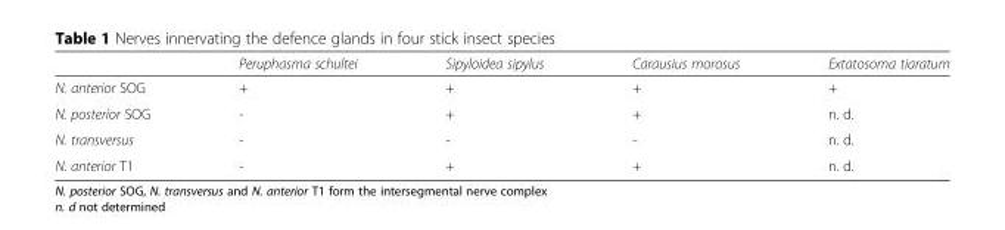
<table><thead><tr><td></td><td>Peruphasma schultei</td><td>Sipyloidea sipylus</td><td>Carausius morosus</td><td>Extatosoma tiaratum</td></tr></thead><tbody><tr><td>N. anterior SOG</td><td>+</td><td>+</td><td>+</td><td>+</td></tr><tr><td>N. posterior SOG</td><td>-</td><td>+</td><td>+</td><td>n. d.</td></tr><tr><td>N. transversus</td><td>-</td><td>-</td><td>-</td><td>n. d.</td></tr><tr><td>N. anterior T1</td><td>-</td><td>+</td><td>+</td><td>n. d.</td></tr></tbody></table>